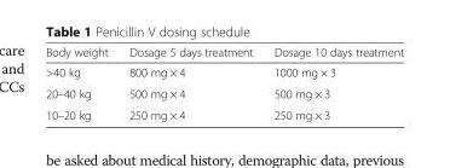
<table><thead><tr><td>Body weight</td><td>Dosage 5 days treatment</td><td>Dosage 10 days treatment</td></tr></thead><tbody><tr><td>&gt;40 kg</td><td>800 mg × 4</td><td>1000 mg × 3</td></tr><tr><td>20–40 kg</td><td>500 mg × 4</td><td>500 mg × 3</td></tr><tr><td>10–20 kg</td><td>250 mg × 4</td><td>250 mg × 3</td></tr></tbody></table>